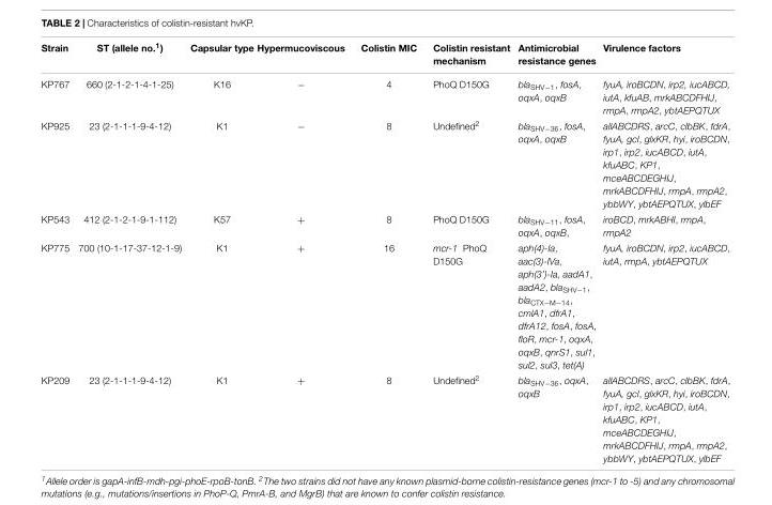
<table><thead><tr><td>Strain</td><td>ST (allele no.<sup>1</sup>)</td><td>Capsular type</td><td>Hypermucoviscous</td><td>Colistin MIC</td><td>Colistin resistant mechanism</td><td>Antimicrobial resistance genes</td><td>Virulence factors</td></tr></thead><tbody><tr><td>KP767</td><td>660 (2-1-2-1-4-1-25)</td><td>K16</td><td>−</td><td>4</td><td>PhoQ D150G</td><td>bla<sub>SHV−1</sub>, fosA, oqxA, oqxB</td><td>fyuA, iroBCDN, irp2, iucABCD, iutA, kfuAB, mrkABCDFHIJ, rmpA, rmpA2, ybtAEPQTUX</td></tr><tr><td>KP925</td><td>23 (2-1-1-1-9-4-12)</td><td>K1</td><td>−</td><td>8</td><td>Undefined<sup>2</sup></td><td>bla<sub>SHV−36</sub>, fosA, oqxA, oqxB</td><td>allABCDRS, arcC, clbBK, fdrA, fyuA, gcl, glxKR, hyi, iroBCDN, irp1, irp2, iucABCD, iutA, kfuABC, KP1, mceABCDEGHIJ, mrkABCDFHIJ, rmpA, rmpA2, ybbWY, ybtAEPQTUX, ylbEF</td></tr><tr><td>KP543</td><td>412 (2-1-2-1-9-1-112)</td><td>K57</td><td>+</td><td>8</td><td>PhoQ D150G</td><td>bla<sub>SHV−11</sub>, fosA, oqxA, oqxB,</td><td>iroBCD, mrkABHI, rmpA, rmpA2</td></tr><tr><td>KP775</td><td>700 (10-1-17-37-12-1-9)</td><td>K1</td><td>+</td><td>16</td><td>mcr-1 PhoQ D150G</td><td>aph(4)-Ia, aac(3)-IVa, aph(3’)-Ia, aadA1, aadA2, bla<sub>SHV−1</sub>, bla<sub>CTX−M−14</sub>, cmlA1, dfrA1, dfrA12, fosA, fosA, floR, mcr-1, oqxA, oqxB, qnrS1, sul1, sul2, sul3, tet(A)</td><td>fyuA, iroBCDN, irp2, iucABCD, iutA, rmpA, ybtAEPQTUX</td></tr><tr><td>KP209</td><td>23 (2-1-1-1-9-4-12)</td><td>K1</td><td>+</td><td>8</td><td>Undefined<sup>2</sup></td><td>bla<sub>SHV−36</sub>, oqxA, oqxB</td><td>allABCDRS, arcC, clbBK, fdrA, fyuA, gcl, glxKR, hyi, iroBCDN, irp1, irp2, iucABCD, iutA, kfuABC, KP1, mceABCDEGHIJ, mrkABCDFHIJ, rmpA, rmpA2, ybbWY, ybtAEPQTUX, ylbEF</td></tr></tbody></table>